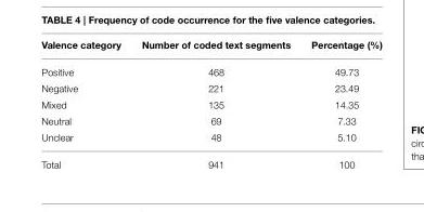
<table><thead><tr><td>Valence category</td><td>Number of coded text segments</td><td>Percentage (%)</td></tr></thead><tbody><tr><td>Positive</td><td>468</td><td>49.73</td></tr><tr><td>Negative</td><td>221</td><td>23.49</td></tr><tr><td>Mixed</td><td>135</td><td>14.35</td></tr><tr><td>Neutral</td><td>69</td><td>7.33</td></tr><tr><td>Unclear</td><td>48</td><td>5.10</td></tr><tr><td>Total</td><td>941</td><td>100</td></tr></tbody></table>